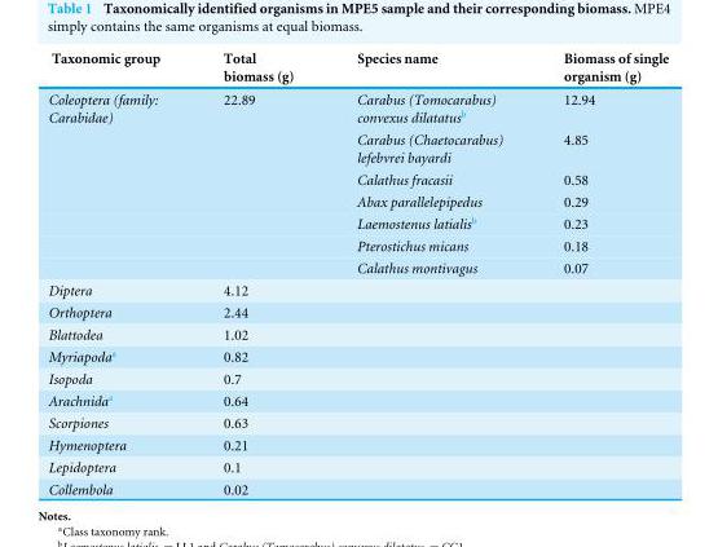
<table><thead><tr><td>Taxonomic group</td><td>Total biomass (g)</td><td>Species name</td><td>Biomass of single organism (g)</td></tr></thead><tbody><tr><td rowspan="7">Coleoptera (family: Carabidae)</td><td>22.89</td><td>Carabus (Tomocarabus) convexus dilatatus<sup>b</sup></td><td>12.94</td></tr><tr><td></td><td>Carabus (Chaetocarabus) lefebvrei bayardi</td><td>4.85</td></tr><tr><td></td><td>Calathus fracasii</td><td>0.58</td></tr><tr><td></td><td>Abax parallelepipedus</td><td>0.29</td></tr><tr><td></td><td>Laemostenus latialis<sup>b</sup></td><td>0.23</td></tr><tr><td></td><td>Pterostichus micans</td><td>0.18</td></tr><tr><td></td><td>Calathus montivagus</td><td>0.07</td></tr><tr><td>Diptera</td><td>4.12</td><td></td><td></td></tr><tr><td>Orthoptera</td><td>2.44</td><td></td><td></td></tr><tr><td>Blattodea</td><td>1.02</td><td></td><td></td></tr><tr><td>Myriapoda<sup>a</sup></td><td>0.82</td><td></td><td></td></tr><tr><td>Isopoda</td><td>0.7</td><td></td><td></td></tr><tr><td>Arachnida<sup>a</sup></td><td>0.64</td><td></td><td></td></tr><tr><td>Scorpiones</td><td>0.63</td><td></td><td></td></tr><tr><td>Hymenoptera</td><td>0.21</td><td></td><td></td></tr><tr><td>Lepidoptera</td><td>0.1</td><td></td><td></td></tr><tr><td>Collembola</td><td>0.02</td><td></td><td></td></tr></tbody></table>